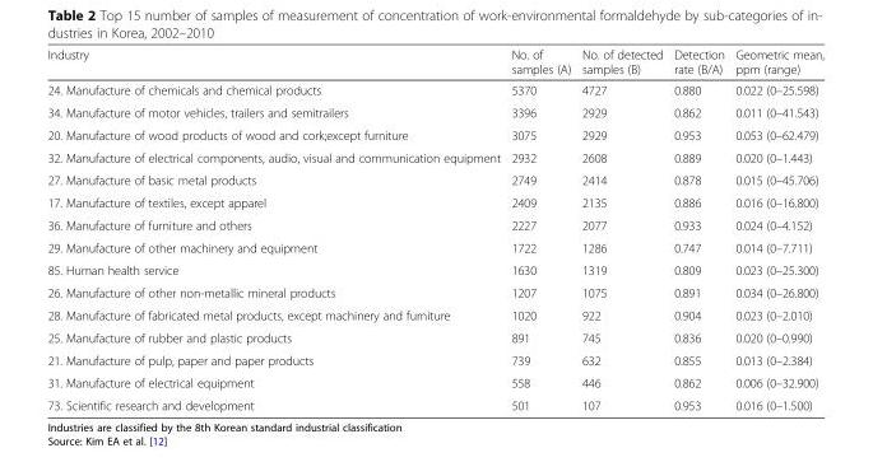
<table><thead><tr><td>Industry</td><td>No. of samples (A)</td><td>No. of detected samples (B)</td><td>Detection rate (B/A)</td><td>Geometric mean, ppm (range)</td></tr></thead><tbody><tr><td>24. Manufacture of chemicals and chemical products</td><td>5370</td><td>4727</td><td>0.880</td><td>0.022 (0–25.598)</td></tr><tr><td>34. Manufacture of motor vehicles, trailers and semitrailers</td><td>3396</td><td>2929</td><td>0.862</td><td>0.011 (0–41.543)</td></tr><tr><td>20. Manufacture of wood products of wood and cork;except furniture</td><td>3075</td><td>2929</td><td>0.953</td><td>0.053 (0–62.479)</td></tr><tr><td>32. Manufacture of electrical components, audio, visual and communication equipment</td><td>2932</td><td>2608</td><td>0.889</td><td>0.020 (0–1.443)</td></tr><tr><td>27. Manufacture of basic metal products</td><td>2749</td><td>2414</td><td>0.878</td><td>0.015 (0–45.706)</td></tr><tr><td>17. Manufacture of textiles, except apparel</td><td>2409</td><td>2135</td><td>0.886</td><td>0.016 (0–16.800)</td></tr><tr><td>36. Manufacture of furniture and others</td><td>2227</td><td>2077</td><td>0.933</td><td>0.024 (0–4.152)</td></tr><tr><td>29. Manufacture of other machinery and equipment</td><td>1722</td><td>1286</td><td>0.747</td><td>0.014 (0–7.711)</td></tr><tr><td>85. Human health service</td><td>1630</td><td>1319</td><td>0.809</td><td>0.023 (0–25.300)</td></tr><tr><td>26. Manufacture of other non-metallic mineral products</td><td>1207</td><td>1075</td><td>0.891</td><td>0.034 (0–26.800)</td></tr><tr><td>28. Manufacture of fabricated metal products, except machinery and furniture</td><td>1020</td><td>922</td><td>0.904</td><td>0.023 (0–2.010)</td></tr><tr><td>25. Manufacture of rubber and plastic products</td><td>891</td><td>745</td><td>0.836</td><td>0.020 (0–0.990)</td></tr><tr><td>21. Manufacture of pulp, paper and paper products</td><td>739</td><td>632</td><td>0.855</td><td>0.013 (0–2.384)</td></tr><tr><td>31. Manufacture of electrical equipment</td><td>558</td><td>446</td><td>0.862</td><td>0.006 (0–32.900)</td></tr><tr><td>73. Scientific research and development</td><td>501</td><td>107</td><td>0.953</td><td>0.016 (0–1.500)</td></tr></tbody></table>